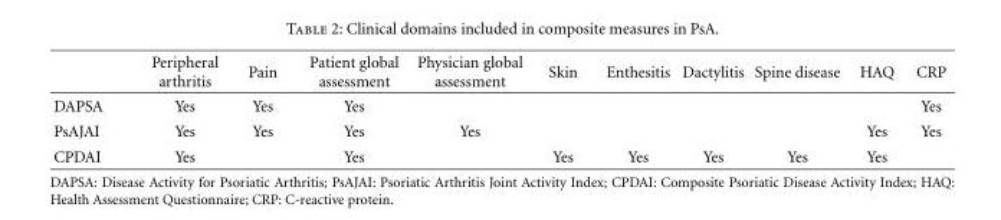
<table><thead><tr><td></td><td>Peripheral arthritis</td><td>Pain</td><td>Patient global assessment</td><td>Physician global assessment</td><td>Skin</td><td>Enthesitis</td><td>Dactylitis</td><td>Spine disease</td><td>HAQ</td><td>CRP</td></tr></thead><tbody><tr><td>DAPSA</td><td>Yes</td><td>Yes</td><td>Yes</td><td></td><td></td><td></td><td></td><td></td><td></td><td>Yes</td></tr><tr><td>PsAJAI</td><td>Yes</td><td>Yes</td><td>Yes</td><td>Yes</td><td></td><td></td><td></td><td></td><td>Yes</td><td>Yes</td></tr><tr><td>CPDAI</td><td>Yes</td><td></td><td>Yes</td><td></td><td>Yes</td><td>Yes</td><td>Yes</td><td>Yes</td><td>Yes</td><td></td></tr></tbody></table>